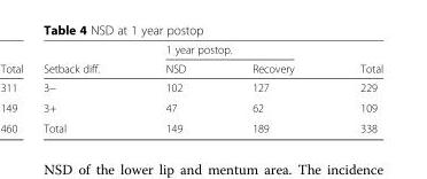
<table><thead><tr><td rowspan="2">Setback diff.</td><td colspan="2">1 year postop.</td><td rowspan="2">Total</td></tr><tr><td>NSD</td><td>Recovery</td></tr></thead><tbody><tr><td>3−</td><td>102</td><td>127</td><td>229</td></tr><tr><td>3+</td><td>47</td><td>62</td><td>109</td></tr><tr><td>Total</td><td>149</td><td>189</td><td>338</td></tr></tbody></table>